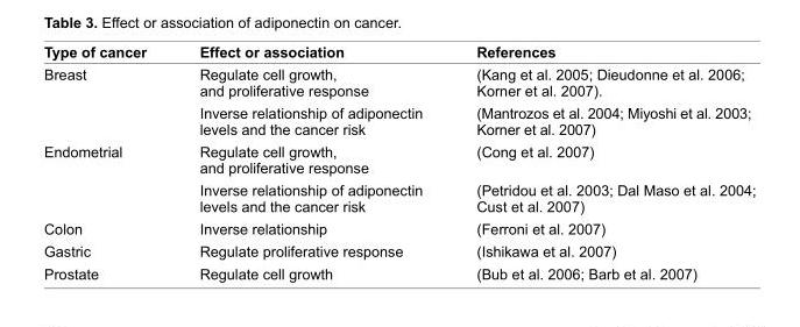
<table><thead><tr><td>Type of cancer</td><td>Effect or association</td><td>References</td></tr></thead><tbody><tr><td rowspan="2">Breast</td><td>Regulate cell growth, and proliferative response</td><td>(Kang et al. 2005; Dieudonne et al. 2006; Korner et al. 2007).</td></tr><tr><td>Inverse relationship of adiponectin levels and the cancer risk</td><td>(Mantrozos et al. 2004; Miyoshi et al. 2003; Korner et al. 2007)</td></tr><tr><td rowspan="2">Endometrial</td><td>Regulate cell growth, and proliferative response</td><td>(Cong et al. 2007)</td></tr><tr><td>Inverse relationship of adiponectin levels and the cancer risk</td><td>(Petridou et al. 2003; Dal Maso et al. 2004; Cust et al. 2007)</td></tr><tr><td>Colon</td><td>Inverse relationship</td><td>(Ferroni et al. 2007)</td></tr><tr><td>Gastric</td><td>Regulate proliferative response</td><td>(Ishikawa et al. 2007)</td></tr><tr><td>Prostate</td><td>Regulate cell growth</td><td>(Bub et al. 2006; Barb et al. 2007)</td></tr></tbody></table>